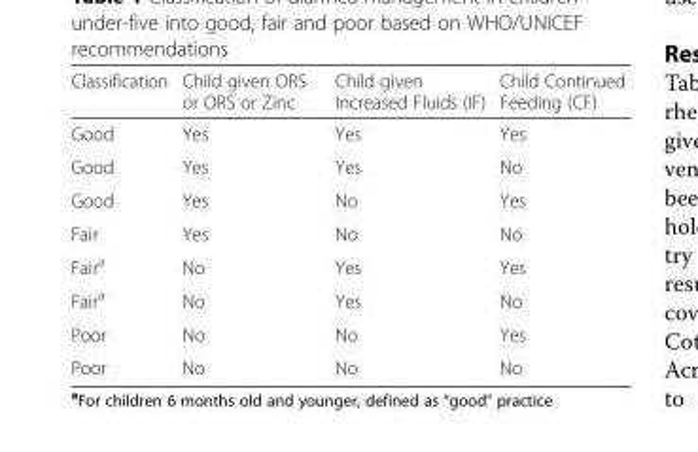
<table><thead><tr><td>Classification</td><td>Child given ORS or ORS or Zinc</td><td>Child given Increased Fluids (IF)</td><td>Child Continued Feeding (CF)</td></tr></thead><tbody><tr><td>Good</td><td>Yes</td><td>Yes</td><td>Yes</td></tr><tr><td>Good</td><td>Yes</td><td>Yes</td><td>No</td></tr><tr><td>Good</td><td>Yes</td><td>No</td><td>Yes</td></tr><tr><td>Fair</td><td>Yes</td><td>No</td><td>No</td></tr><tr><td>Fair<sup>a</sup></td><td>No</td><td>Yes</td><td>Yes</td></tr><tr><td>Fair<sup>a</sup></td><td>No</td><td>Yes</td><td>No</td></tr><tr><td>Poor</td><td>No</td><td>No</td><td>Yes</td></tr><tr><td>Poor</td><td>No</td><td>No</td><td>No</td></tr></tbody></table>